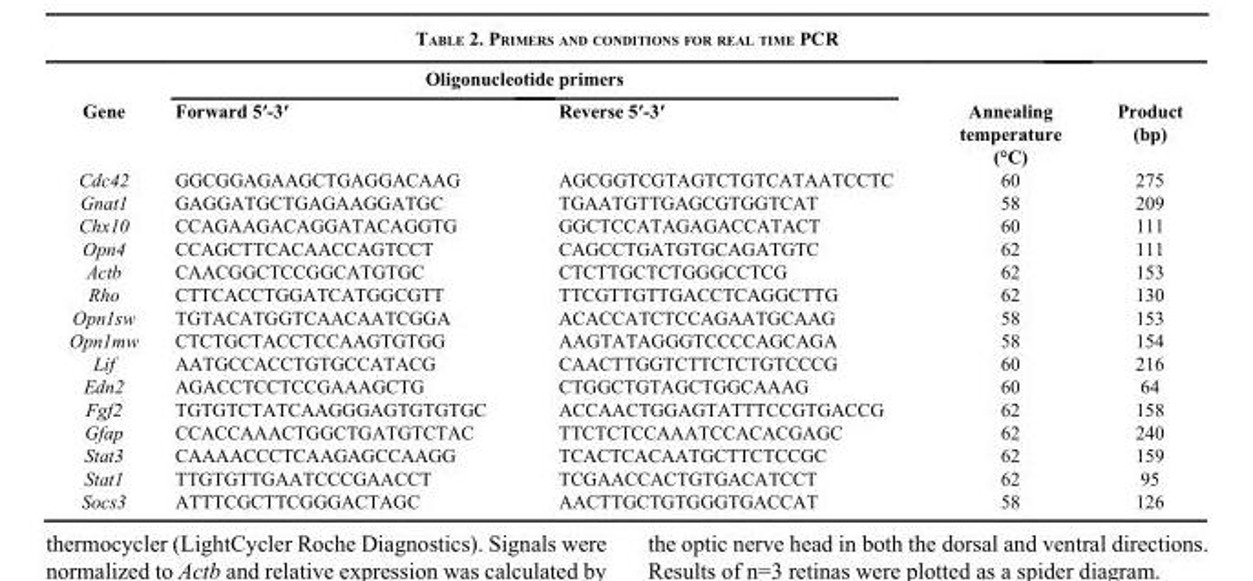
<table><thead><tr><td rowspan="2">Gene</td><td colspan="2">Oligonucleotide primers</td><td rowspan="2">Annealing temperature (°C)</td><td rowspan="2">Product (bp)</td></tr><tr><td>Forward 5′-3′</td><td>Reverse 5′-3′</td></tr></thead><tbody><tr><td>Cdc42</td><td>GGCGGAGAAGCTGAGGACAAG</td><td>AGCGGTCGTAGTCTGTCATAATCCTC</td><td>60</td><td>275</td></tr><tr><td>Gnat1</td><td>GAGGATGCTGAGAAGGATGC</td><td>TGAATGTTGAGCGTGGTCAT</td><td>58</td><td>209</td></tr><tr><td>Chx10</td><td>CCAGAAGACAGGATACAGGTG</td><td>GGCTCCATAGAGACCATACT</td><td>60</td><td>111</td></tr><tr><td>Opn4</td><td>CCAGCTTCACAACCAGTCCT</td><td>CAGCCTGATGTGCAGATGTC</td><td>62</td><td>111</td></tr><tr><td>Actb</td><td>CAACGGCTCCGGCATGTGC</td><td>CTCTTGCTCTGGGCCTCG</td><td>62</td><td>153</td></tr><tr><td>Rho</td><td>CTTCACCTGGATCATGGCGTT</td><td>TTCGTTGTTGACCTCAGGCTTG</td><td>62</td><td>130</td></tr><tr><td>Opn1sw</td><td>TGTACATGGTCAACAATCGGA</td><td>ACACCATCTCCAGAATGCAAG</td><td>58</td><td>153</td></tr><tr><td>Opn1mw</td><td>CTCTGCTACCTCCAAGTGTGG</td><td>AAGTATAGGGTCCCCAGCAGA</td><td>58</td><td>154</td></tr><tr><td>Lif</td><td>AATGCCACCTGTGCCATACG</td><td>CAACTTGGTCTTCTCTGTCCCG</td><td>60</td><td>216</td></tr><tr><td>Edn2</td><td>AGACCTCCTCCGAAAGCTG</td><td>CTGGCTGTAGCTGGCAAAG</td><td>60</td><td>64</td></tr><tr><td>Fgf2</td><td>TGTGTCTATCAAGGGAGTGTGTGC</td><td>ACCAACTGGAGTATTTCCGTGACCG</td><td>62</td><td>158</td></tr><tr><td>Gfap</td><td>CCACCAAACTGGCTGATGTCTAC</td><td>TTCTCTCCAAATCCACACGAGC</td><td>62</td><td>240</td></tr><tr><td>Stat3</td><td>CAAAACCCTCAAGAGCCAAGG</td><td>TCACTCACAATGCTTCTCCGC</td><td>62</td><td>159</td></tr><tr><td>Stat1</td><td>TTGTGTTGAATCCCGAACCT</td><td>TCGAACCACTGTGACATCCT</td><td>62</td><td>95</td></tr><tr><td>Socs3</td><td>ATTTCGCTTCGGGACTAGC</td><td>AACTTGCTGTGGGTGACCAT</td><td>58</td><td>126</td></tr></tbody></table>